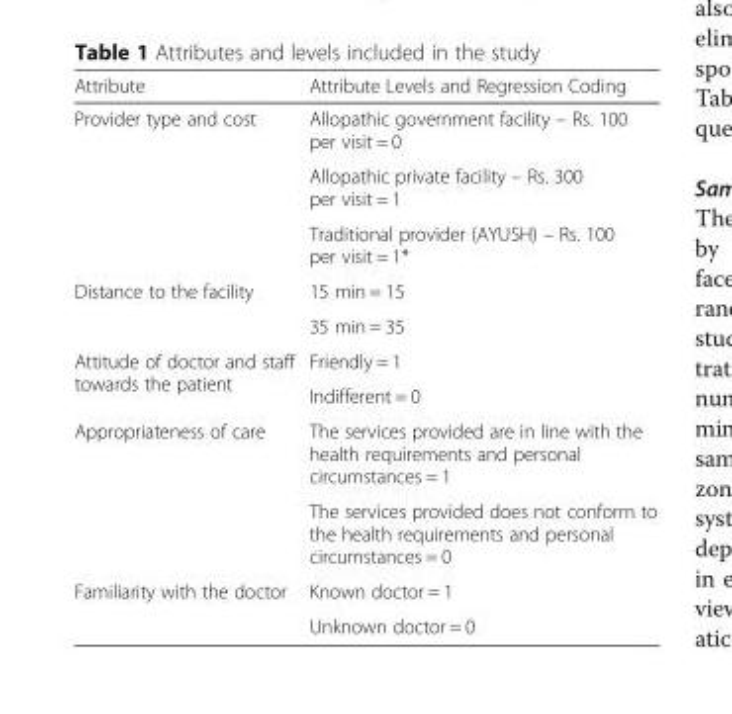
<table><thead><tr><td>Attribute</td><td>Attribute Levels and Regression Coding</td></tr></thead><tbody><tr><td rowspan="3">Provider type and cost</td><td>Allopathic government facility – Rs. 100 per visit = 0</td></tr><tr><td>Allopathic private facility – Rs. 300 per visit = 1</td></tr><tr><td>Traditional provider (AYUSH) – Rs. 100 per visit = 1*</td></tr><tr><td rowspan="2">Distance to the facility</td><td>15 min = 15</td></tr><tr><td>35 min = 35</td></tr><tr><td rowspan="2">Attitude of doctor and staff towards the patient</td><td>Friendly = 1</td></tr><tr><td>Indifferent = 0</td></tr><tr><td rowspan="2">Appropriateness of care</td><td>The services provided are in line with the health requirements and personal circumstances = 1</td></tr><tr><td>The services provided does not conform to the health requirements and personal circumstances = 0</td></tr><tr><td rowspan="2">Familiarity with the doctor</td><td>Known doctor = 1</td></tr><tr><td>Unknown doctor = 0</td></tr></tbody></table>